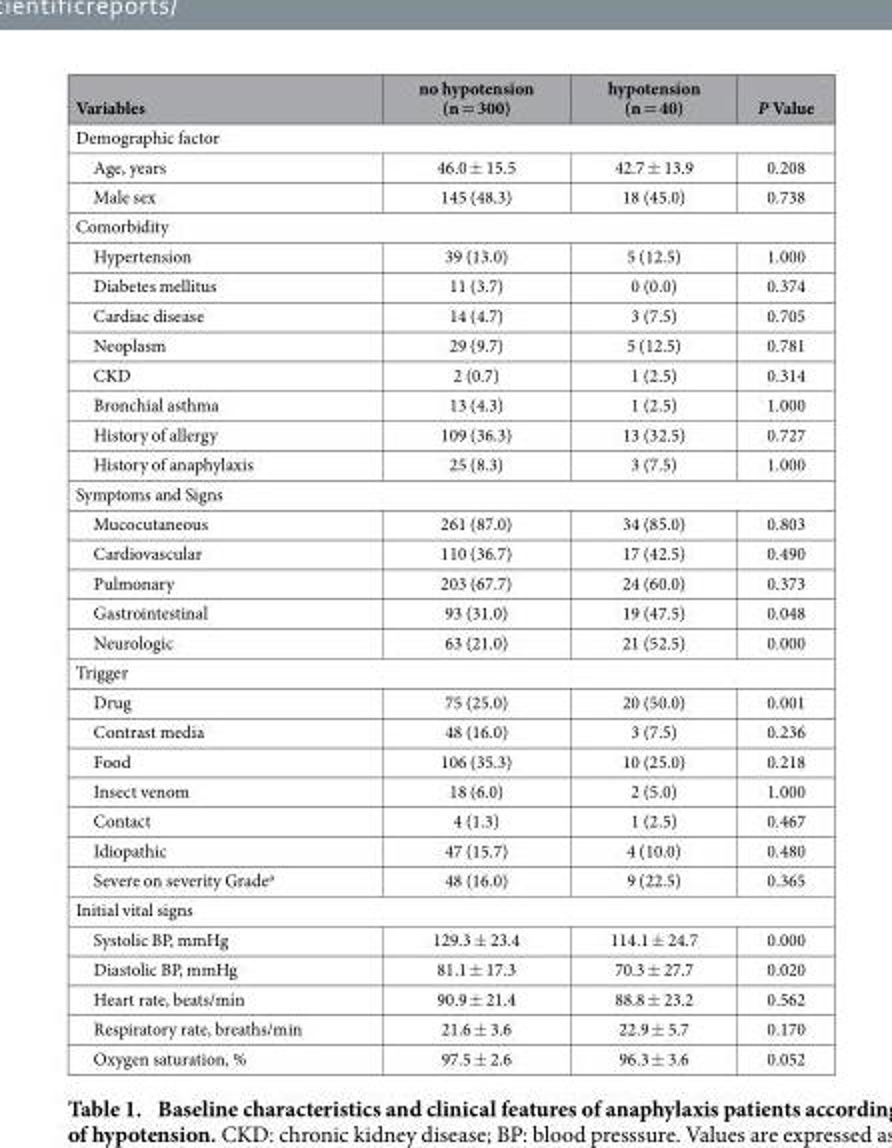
<table><thead><tr><td>Variables</td><td>no hypotension (n = 300)</td><td>hypotension (n = 40)</td><td>P Value</td></tr></thead><tbody><tr><td colspan="4">Demographic factor</td></tr><tr><td>Age, years</td><td>46.0 ± 15.5</td><td>42.7 ± 13.9</td><td>0.208</td></tr><tr><td>Male sex</td><td>145 (48.3)</td><td>18 (45.0)</td><td>0.738</td></tr><tr><td colspan="4">Comorbidity</td></tr><tr><td>Hypertension</td><td>39 (13.0)</td><td>5 (12.5)</td><td>1.000</td></tr><tr><td>Diabetes mellitus</td><td>11 (3.7)</td><td>0 (0.0)</td><td>0.374</td></tr><tr><td>Cardiac disease</td><td>14 (4.7)</td><td>3 (7.5)</td><td>0.705</td></tr><tr><td>Neoplasm</td><td>29 (9.7)</td><td>5 (12.5)</td><td>0.781</td></tr><tr><td>CKD</td><td>2 (0.7)</td><td>1 (2.5)</td><td>0.314</td></tr><tr><td>Bronchial asthma</td><td>13 (4.3)</td><td>1 (2.5)</td><td>1.000</td></tr><tr><td>History of allergy</td><td>109 (36.3)</td><td>13 (32.5)</td><td>0.727</td></tr><tr><td>History of anaphylaxis</td><td>25 (8.3)</td><td>3 (7.5)</td><td>1.000</td></tr><tr><td colspan="4">Symptoms and Signs</td></tr><tr><td>Mucocutaneous</td><td>261 (87.0)</td><td>34 (85.0)</td><td>0.803</td></tr><tr><td>Cardiovascular</td><td>110 (36.7)</td><td>17 (42.5)</td><td>0.490</td></tr><tr><td>Pulmonary</td><td>203 (67.7)</td><td>24 (60.0)</td><td>0.373</td></tr><tr><td>Gastrointestinal</td><td>93 (31.0)</td><td>19 (47.5)</td><td>0.048</td></tr><tr><td>Neurologic</td><td>63 (21.0)</td><td>21 (52.5)</td><td>0.000</td></tr><tr><td colspan="4">Trigger</td></tr><tr><td>Drug</td><td>75 (25.0)</td><td>20 (50.0)</td><td>0.001</td></tr><tr><td>Contrast media</td><td>48 (16.0)</td><td>3 (7.5)</td><td>0.236</td></tr><tr><td>Food</td><td>106 (35.3)</td><td>10 (25.0)</td><td>0.218</td></tr><tr><td>Insect venom</td><td>18 (6.0)</td><td>2 (5.0)</td><td>1.000</td></tr><tr><td>Contact</td><td>4 (1.3)</td><td>1 (2.5)</td><td>0.467</td></tr><tr><td>Idiopathic</td><td>47 (15.7)</td><td>4 (10.0)</td><td>0.480</td></tr><tr><td>Severe on severity Grade<sup>a</sup></td><td>48 (16.0)</td><td>9 (22.5)</td><td>0.365</td></tr><tr><td colspan="4">Initial vital signs</td></tr><tr><td>Systolic BP, mmHg</td><td>129.3 ± 23.4</td><td>114.1 ± 24.7</td><td>0.000</td></tr><tr><td>Diastolic BP, mmHg</td><td>81.1 ± 17.3</td><td>70.3 ± 27.7</td><td>0.020</td></tr><tr><td>Heart rate, beats/min</td><td>90.9 ± 21.4</td><td>88.8 ± 23.2</td><td>0.562</td></tr><tr><td>Respiratory rate, breaths/min</td><td>21.6 ± 3.6</td><td>22.9 ± 5.7</td><td>0.170</td></tr><tr><td>Oxygen saturation, %</td><td>97.5 ± 2.6</td><td>96.3 ± 3.6</td><td>0.052</td></tr></tbody></table>